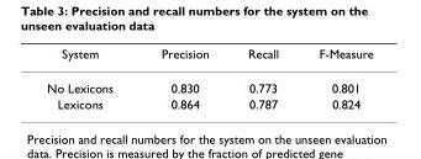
<table><thead><tr><td>System</td><td>Precision</td><td>Recall</td><td>F-Measure</td></tr></thead><tbody><tr><td>No Lexicons</td><td>0.830</td><td>0.773</td><td>0.801</td></tr><tr><td>Lexicons</td><td>0.864</td><td>0.787</td><td>0.824</td></tr></tbody></table>